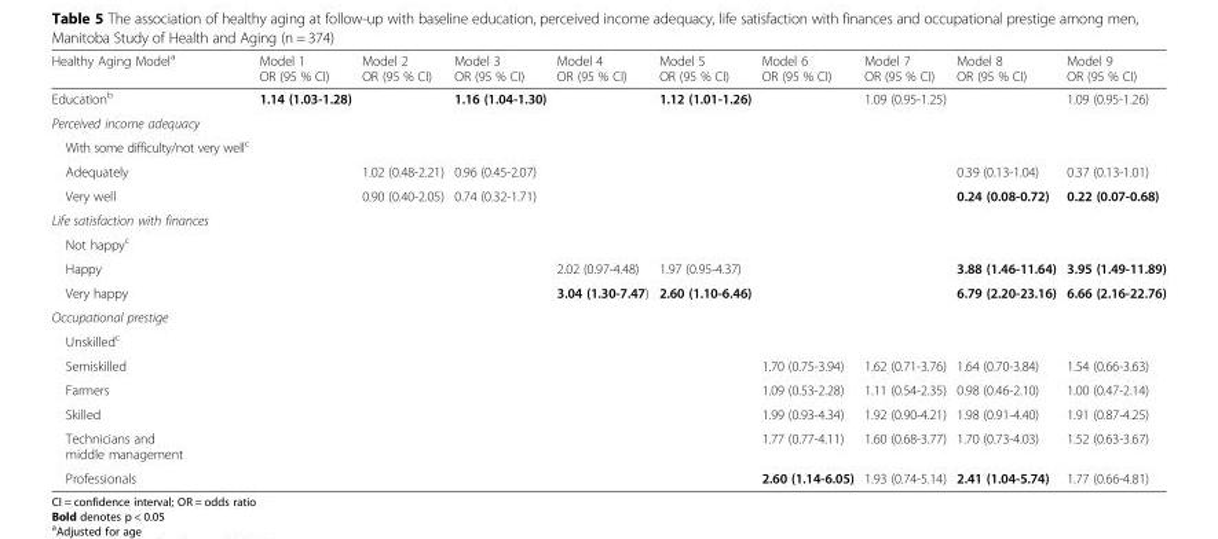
<table><thead><tr><td>Healthy Aging Model<sup>a</sup></td><td>Model 1 OR (95 % CI)</td><td>Model 2 OR (95 % CI)</td><td>Model 3 OR (95 % CI)</td><td>Model 4 OR (95 % CI)</td><td>Model 5 OR (95 % CI)</td><td>Model 6 OR (95 % CI)</td><td>Model 7 OR (95 % CI)</td><td>Model 8 OR (95 % CI)</td><td>Model 9 OR (95 % CI)</td></tr></thead><tbody><tr><td>Education<sup>b</sup></td><td>1.14 (1.03-1.28)</td><td></td><td>1.16 (1.04-1.30)</td><td></td><td>1.12 (1.01-1.26)</td><td></td><td>1.09 (0.95-1.25)</td><td></td><td>1.09 (0.95-1.26)</td></tr><tr><td colspan="10">Perceived income adequacy</td></tr><tr><td colspan="10">With some difficulty/not very well<sup>c</sup></td></tr><tr><td>Adequately</td><td></td><td>1.02 (0.48-2.21)</td><td>0.96 (0.45-2.07)</td><td></td><td></td><td></td><td></td><td>0.39 (0.13-1.04)</td><td>0.37 (0.13-1.01)</td></tr><tr><td>Very well</td><td></td><td>0.90 (0.40-2.05)</td><td>0.74 (0.32-1.71)</td><td></td><td></td><td></td><td></td><td>0.24 (0.08-0.72)</td><td>0.22 (0.07-0.68)</td></tr><tr><td colspan="10">Life satisfaction with finances</td></tr><tr><td colspan="10">Not happy<sup>c</sup></td></tr><tr><td>Happy</td><td></td><td></td><td></td><td>2.02 (0.97-4.48)</td><td>1.97 (0.95-4.37)</td><td></td><td></td><td>3.88 (1.46-11.64)</td><td>3.95 (1.49-11.89)</td></tr><tr><td>Very happy</td><td></td><td></td><td></td><td>3.04 (1.30-7.47)</td><td>2.60 (1.10-6.46)</td><td></td><td></td><td>6.79 (2.20-23.16)</td><td>6.66 (2.16-22.76)</td></tr><tr><td colspan="10">Occupational prestige</td></tr><tr><td colspan="10">Unskilled<sup>c</sup></td></tr><tr><td>Semiskilled</td><td></td><td></td><td></td><td></td><td></td><td>1.70 (0.75-3.94)</td><td>1.62 (0.71-3.76)</td><td>1.64 (0.70-3.84)</td><td>1.54 (0.66-3.63)</td></tr><tr><td>Farmers</td><td></td><td></td><td></td><td></td><td></td><td>1.09 (0.53-2.28)</td><td>1.11 (0.54-2.35)</td><td>0.98 (0.46-2.10)</td><td>1.00 (0.47-2.14)</td></tr><tr><td>Skilled</td><td></td><td></td><td></td><td></td><td></td><td>1.99 (0.93-4.34)</td><td>1.92 (0.90-4.21)</td><td>1.98 (0.91-4.40)</td><td>1.91 (0.87-4.25)</td></tr><tr><td>Technicians and middle management</td><td></td><td></td><td></td><td></td><td></td><td>1.77 (0.77-4.11)</td><td>1.60 (0.68-3.77)</td><td>1.70 (0.73-4.03)</td><td>1.52 (0.63-3.67)</td></tr><tr><td>Professionals</td><td></td><td></td><td></td><td></td><td></td><td>2.60 (1.14-6.05)</td><td>1.93 (0.74-5.14)</td><td>2.41 (1.04-5.74)</td><td>1.77 (0.66-4.81)</td></tr></tbody></table>